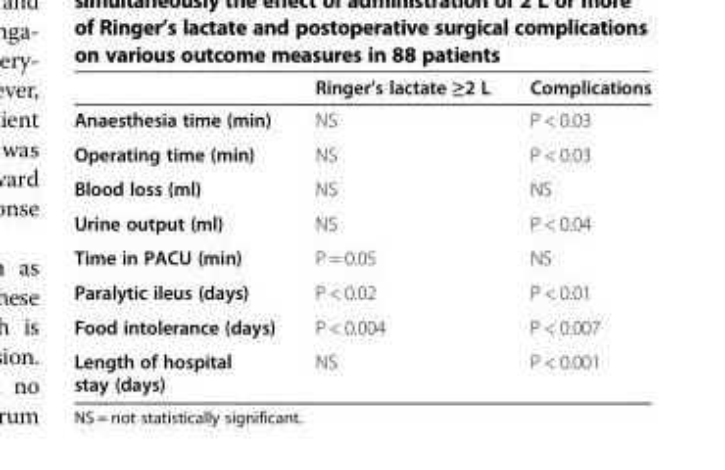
<table><thead><tr><td></td><td>Ringer’s lactate ≥2 L</td><td>Complications</td></tr></thead><tbody><tr><td>Anaesthesia time (min)</td><td>NS</td><td>P &lt; 0.03</td></tr><tr><td>Operating time (min)</td><td>NS</td><td>P &lt; 0.03</td></tr><tr><td>Blood loss (ml)</td><td>NS</td><td>NS</td></tr><tr><td>Urine output (ml)</td><td>NS</td><td>P &lt; 0.04</td></tr><tr><td>Time in PACU (min)</td><td>P = 0.05</td><td>NS</td></tr><tr><td>Paralytic ileus (days)</td><td>P &lt; 0.02</td><td>P &lt; 0.01</td></tr><tr><td>Food intolerance (days)</td><td>P &lt; 0.004</td><td>P &lt; 0.007</td></tr><tr><td>Length of hospital stay (days)</td><td>NS</td><td>P &lt; 0.001</td></tr></tbody></table>